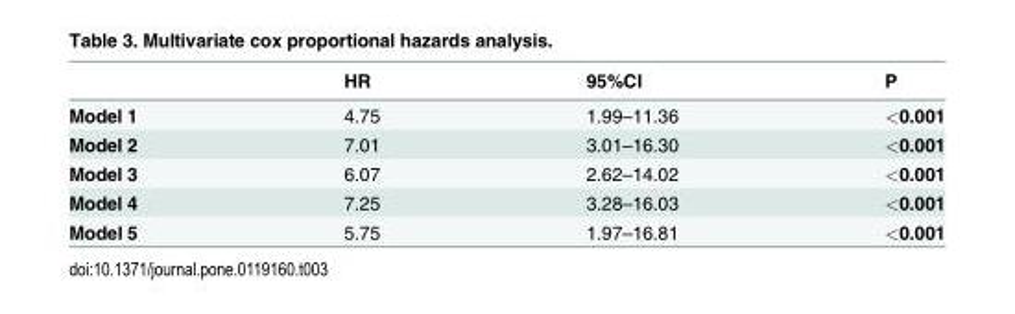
<table><thead><tr><td></td><td>HR</td><td>95%CI</td><td>P</td></tr></thead><tbody><tr><td>Model 1</td><td>4.75</td><td>1.99–11.36</td><td>&lt;0.001</td></tr><tr><td>Model 2</td><td>7.01</td><td>3.01–16.30</td><td>&lt;0.001</td></tr><tr><td>Model 3</td><td>6.07</td><td>2.62–14.02</td><td>&lt;0.001</td></tr><tr><td>Model 4</td><td>7.25</td><td>3.28–16.03</td><td>&lt;0.001</td></tr><tr><td>Model 5</td><td>5.75</td><td>1.97–16.81</td><td>&lt;0.001</td></tr></tbody></table>